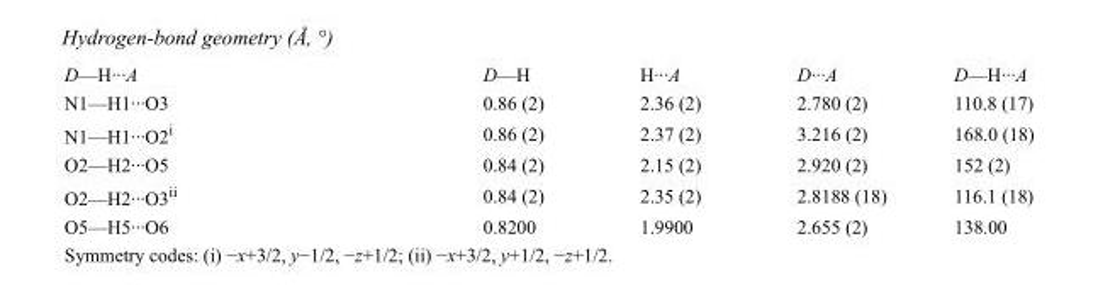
<table><tbody><tr><td>D—H···A</td><td>D—H</td><td>H···A</td><td>D···A</td><td>D—H···A</td></tr><tr><td>N1—H1···O3</td><td>0.86 (2)</td><td>2.36 (2)</td><td>2.780 (2)</td><td>110.8 (17)</td></tr><tr><td>N1—H1···O2<sup>i</sup></td><td>0.86 (2)</td><td>2.37 (2)</td><td>3.216 (2)</td><td>168.0 (18)</td></tr><tr><td>O2—H2···O5</td><td>0.84 (2)</td><td>2.15 (2)</td><td>2.920 (2)</td><td>152 (2)</td></tr><tr><td>O2—H2···O3<sup>ii</sup></td><td>0.84 (2)</td><td>2.35 (2)</td><td>2.8188 (18)</td><td>116.1 (18)</td></tr><tr><td>O5—H5···O6</td><td>0.8200</td><td>1.9900</td><td>2.655 (2)</td><td>138.00</td></tr></tbody></table>